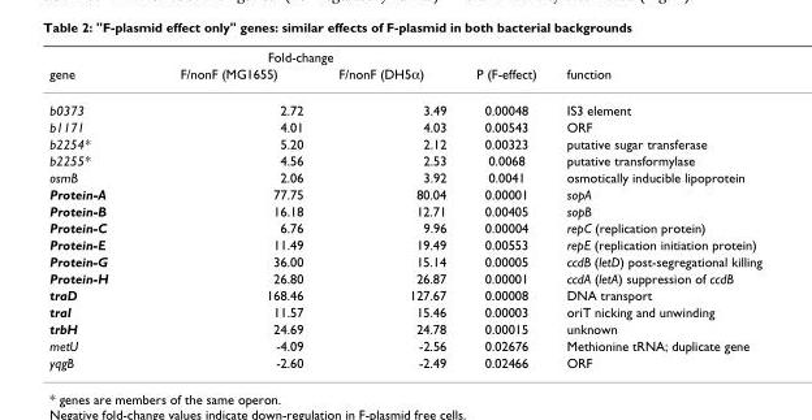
<table><thead><tr><td rowspan="2">gene</td><td colspan="2">Fold-change</td><td rowspan="2">P (F-effect)</td><td rowspan="2">function</td></tr><tr><td>F/nonF (MG1655)</td><td>F/nonF (DH5α)</td></tr></thead><tbody><tr><td>b0373</td><td>2.72</td><td>3.49</td><td>0.00048</td><td>IS3 element</td></tr><tr><td>b1171</td><td>4.01</td><td>4.03</td><td>0.00543</td><td>ORF</td></tr><tr><td>b2254*</td><td>5.20</td><td>2.12</td><td>0.00323</td><td>putative sugar transferase</td></tr><tr><td>b2255*</td><td>4.56</td><td>2.53</td><td>0.0068</td><td>putative transformylase</td></tr><tr><td>osmB</td><td>2.06</td><td>3.92</td><td>0.0041</td><td>osmotically inducible lipoprotein</td></tr><tr><td>Protein-A</td><td>77.75</td><td>80.04</td><td>0.00001</td><td>sopA</td></tr><tr><td>Protein-B</td><td>16.18</td><td>12.71</td><td>0.00405</td><td>sopB</td></tr><tr><td>Protein-C</td><td>6.76</td><td>9.96</td><td>0.00004</td><td>repC (replication protein)</td></tr><tr><td>Protein-E</td><td>11.49</td><td>19.49</td><td>0.00553</td><td>repE (replication initiation protein)</td></tr><tr><td>Protein-G</td><td>36.00</td><td>15.14</td><td>0.00005</td><td>ccdB (letD) post-segregational killing</td></tr><tr><td>Protein-H</td><td>26.80</td><td>26.87</td><td>0.00001</td><td>ccdA (letA) suppression of ccdB</td></tr><tr><td>traD</td><td>168.46</td><td>127.67</td><td>0.00008</td><td>DNA transport</td></tr><tr><td>traI</td><td>11.57</td><td>15.46</td><td>0.00003</td><td>oriT nicking and unwinding</td></tr><tr><td>trbH</td><td>24.69</td><td>24.78</td><td>0.00015</td><td>unknown</td></tr><tr><td>metU</td><td>-4.09</td><td>-2.56</td><td>0.02676</td><td>Methionine tRNA; duplicate gene</td></tr><tr><td>yqgB</td><td>-2.60</td><td>-2.49</td><td>0.02466</td><td>ORF</td></tr></tbody></table>